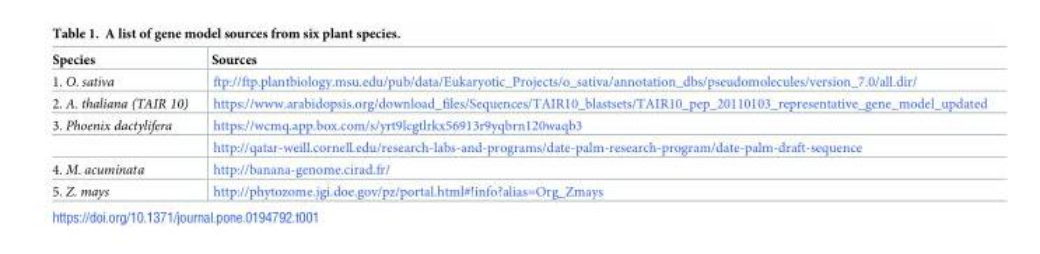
<table><thead><tr><td>Species</td><td>Sources</td></tr></thead><tbody><tr><td>1. O. sativa</td><td>ftp://ftp.plantbiology.msu.edu/pub/data/Eukaryotic_Projects/o_sativa/annotation_dbs/pseudomolecules/version_7.0/all.dir/</td></tr><tr><td>2. A. thaliana (TAIR 10)</td><td>https://www.arabidopsis.org/download_files/Sequences/TAIR10_blastsets/TAIR10_pep_20110103_representative_gene_model_updated</td></tr><tr><td rowspan="2">3. Phoenix dactylifera</td><td>https://wcmq.app.box.com/s/yrt9lcgtlrkx56913r9yqbrn120waqb3</td></tr><tr><td>http://qatar-weill.cornell.edu/research-labs-and-programs/date-palm-research-program/date-palm-draft-sequence</td></tr><tr><td>4. M. acuminata</td><td>http://banana-genome.cirad.fr/</td></tr><tr><td>5. Z. mays</td><td>http://phytozome.jgi.doe.gov/pz/portal.html#!info?alias=Org_Zmays</td></tr></tbody></table>